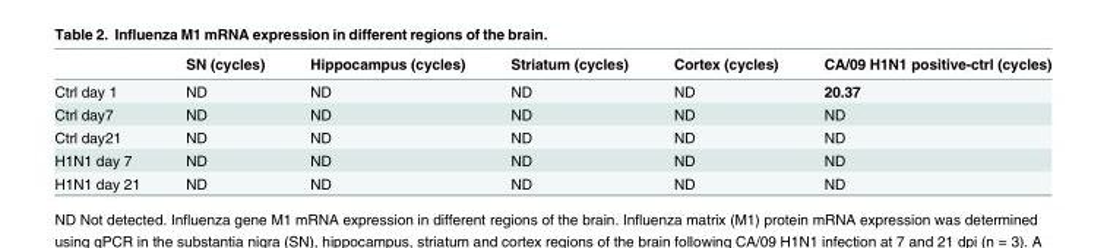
<table><thead><tr><td></td><td>SN (cycles)</td><td>Hippocampus (cycles)</td><td>Striatum (cycles)</td><td>Cortex (cycles)</td><td>CA/09 H1N1 positive-ctrl (cycles)</td></tr></thead><tbody><tr><td>Ctrl day 1</td><td>ND</td><td>ND</td><td>ND</td><td>ND</td><td>20.37</td></tr><tr><td>Ctrl day7</td><td>ND</td><td>ND</td><td>ND</td><td>ND</td><td>ND</td></tr><tr><td>Ctrl day21</td><td>ND</td><td>ND</td><td>ND</td><td>ND</td><td>ND</td></tr><tr><td>H1N1 day 7</td><td>ND</td><td>ND</td><td>ND</td><td>ND</td><td>ND</td></tr><tr><td>H1N1 day 21</td><td>ND</td><td>ND</td><td>ND</td><td>ND</td><td>ND</td></tr></tbody></table>